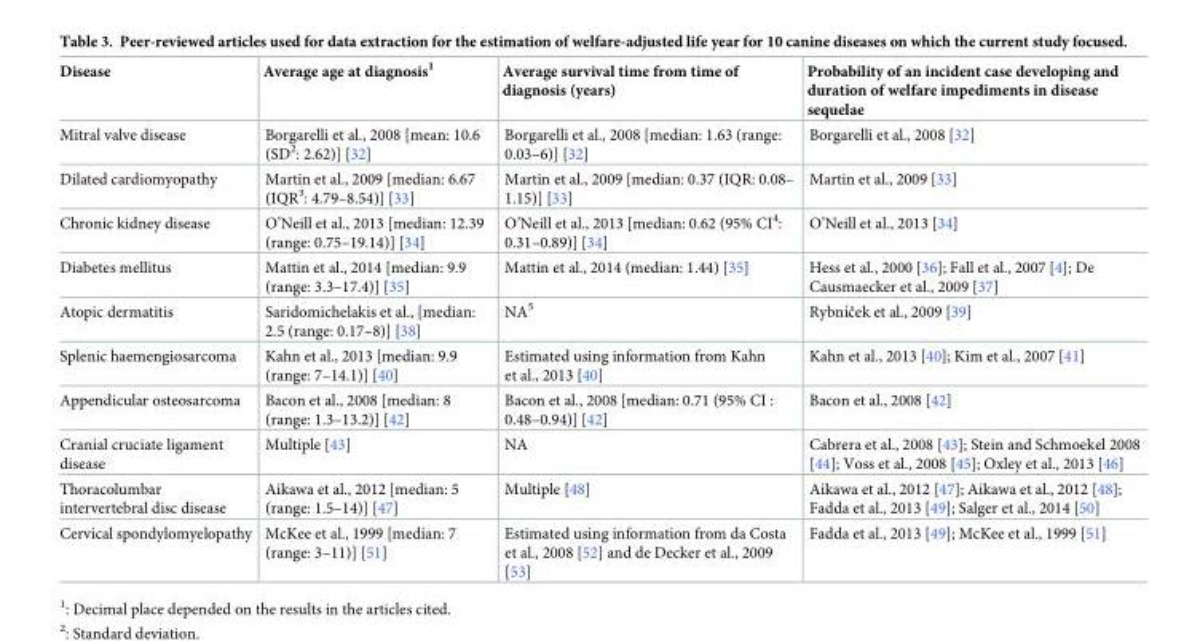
<table><thead><tr><td>Disease</td><td>Average age at diagnosis<sup>1</sup></td><td>Average survival time from time of diagnosis (years)</td><td>Probability of an incident case developing and duration of welfare impediments in disease sequelae</td></tr></thead><tbody><tr><td>Mitral valve disease</td><td>Borgarelli et al., 2008 [mean: 10.6 (SD<sup>2</sup>: 2.62)] [32]</td><td>Borgarelli et al., 2008 [median: 1.63 (range: 0.03–6)] [32]</td><td>Borgarelli et al., 2008 [32]</td></tr><tr><td>Dilated cardiomyopathy</td><td>Martin et al., 2009 [median: 6.67 (IQR<sup>3</sup>: 4.79–8.54)] [33]</td><td>Martin et al., 2009 [median: 0.37 (IQR: 0.08– 1.15)] [33]</td><td>Martin et al., 2009 [33]</td></tr><tr><td>Chronic kidney disease</td><td>O’Neill et al., 2013 [median: 12.39 (range: 0.75–19.14)] [34]</td><td>O’Neill et al., 2013 [median: 0.62 (95% CI<sup>4</sup>: 0.31–0.89)] [34]</td><td>O’Neill et al., 2013 [34]</td></tr><tr><td>Diabetes mellitus</td><td>Mattin et al., 2014 [median: 9.9 (range: 3.3–17.4)] [35]</td><td>Mattin et al., 2014 (median: 1.44) [35]</td><td>Hess et al., 2000 [36]; Fall et al., 2007 [4]; De Causmaecker et al., 2009 [37]</td></tr><tr><td>Atopic dermatitis</td><td>Saridomichelakis et al., [median: 2.5 (range: 0.17–8)] [38]</td><td>NA<sup>5</sup></td><td>Rybnı´ček et al., 2009 [39]</td></tr><tr><td>Splenic haemengiosarcoma</td><td>Kahn et al., 2013 [median: 9.9 (range: 7–14.1)] [40]</td><td>Estimated using information from Kahn et al., 2013 [40]</td><td>Kahn et al., 2013 [40]; Kim et al., 2007 [41]</td></tr><tr><td>Appendicular osteosarcoma</td><td>Bacon et al., 2008 [median: 8 (range: 1.3–13.2)] [42]</td><td>Bacon et al., 2008 [median: 0.71 (95% CI : 0.48–0.94)] [42]</td><td>Bacon et al., 2008 [42]</td></tr><tr><td>Cranial cruciate ligament disease</td><td>Multiple [43]</td><td>NA</td><td>Cabrera et al., 2008 [43]; Stein and Schmoekel 2008 [44]; Voss et al., 2008 [45]; Oxley et al., 2013 [46]</td></tr><tr><td>Thoracolumbar intervertebral disc disease</td><td>Aikawa et al., 2012 [median: 5 (range: 1.5–14)] [47]</td><td>Multiple [48]</td><td>Aikawa et al., 2012 [47]; Aikawa et al., 2012 [48]; Fadda et al., 2013 [49]; Salger et al., 2014 [50]</td></tr><tr><td>Cervical spondylomyelopathy</td><td>McKee et al., 1999 [median: 7 (range: 3–11)] [51]</td><td>Estimated using information from da Costa et al., 2008 [52] and de Decker et al., 2009 [53]</td><td>Fadda et al., 2013 [49]; McKee et al., 1999 [51]</td></tr></tbody></table>